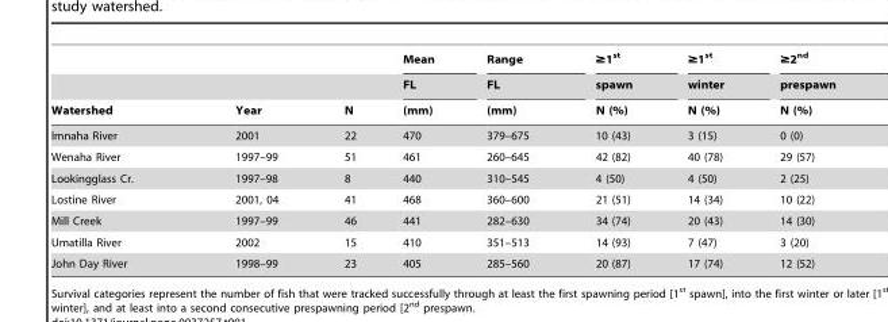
<table><thead><tr><td rowspan="3">Watershed</td><td rowspan="3">Year</td><td rowspan="3">N</td><td rowspan="3">Mean FL (mm)</td><td rowspan="3">Range FL (mm)</td><td rowspan="3">≥1<sup>st</sup> spawn N (%)</td><td rowspan="3">≥1<sup>st</sup> winter N (%)</td><td rowspan="3">≥2<sup>nd</sup> prespawn N (%)</td></tr><tr></tr><tr></tr></thead><tbody><tr><td>Imnaha River</td><td>2001</td><td>22</td><td>470</td><td>379–675</td><td>10 (43)</td><td>3 (15)</td><td>0 (0)</td></tr><tr><td>Wenaha River</td><td>1997–99</td><td>51</td><td>461</td><td>260–645</td><td>42 (82)</td><td>40 (78)</td><td>29 (57)</td></tr><tr><td>Lookingglass Cr.</td><td>1997–98</td><td>8</td><td>440</td><td>310–545</td><td>4 (50)</td><td>4 (50)</td><td>2 (25)</td></tr><tr><td>Lostine River</td><td>2001, 04</td><td>41</td><td>468</td><td>360–600</td><td>21 (51)</td><td>14 (34)</td><td>10 (22)</td></tr><tr><td>Mill Creek</td><td>1997–99</td><td>46</td><td>441</td><td>282–630</td><td>34 (74)</td><td>20 (43)</td><td>14 (30)</td></tr><tr><td>Umatilla River</td><td>2002</td><td>15</td><td>410</td><td>351–513</td><td>14 (93)</td><td>7 (47)</td><td>3 (20)</td></tr><tr><td>John Day River</td><td>1998–99</td><td>23</td><td>405</td><td>285–560</td><td>20 (87)</td><td>17 (74)</td><td>12 (52)</td></tr></tbody></table>